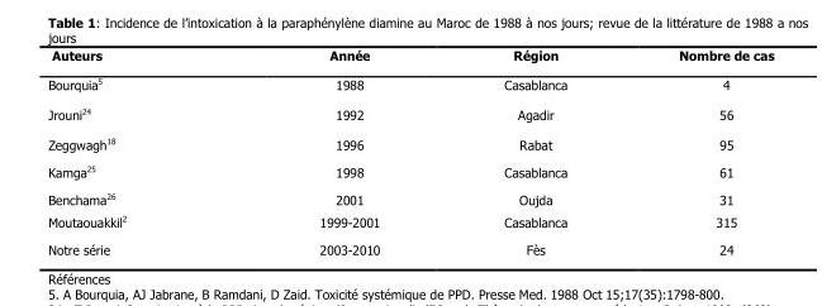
<table><thead><tr><td>Auteurs</td><td>Année</td><td>Région</td><td>Nombre de cas</td></tr></thead><tbody><tr><td>Bourquia<sup>5</sup></td><td>1988</td><td>Casablanca</td><td>4</td></tr><tr><td>Jrouni<sup>24</sup></td><td>1992</td><td>Agadir</td><td>56</td></tr><tr><td>Zeggwagh<sup>18</sup></td><td>1996</td><td>Rabat</td><td>95</td></tr><tr><td>Kamga<sup>25</sup></td><td>1998</td><td>Casablanca</td><td>61</td></tr><tr><td>Benchama<sup>26</sup></td><td>2001</td><td>Oujda</td><td>31</td></tr><tr><td>Moutaouakkil<sup>2</sup></td><td>1999-2001</td><td>Casablanca</td><td>315</td></tr><tr><td>Notre série</td><td>2003-2010</td><td>Fès</td><td>24</td></tr></tbody></table>